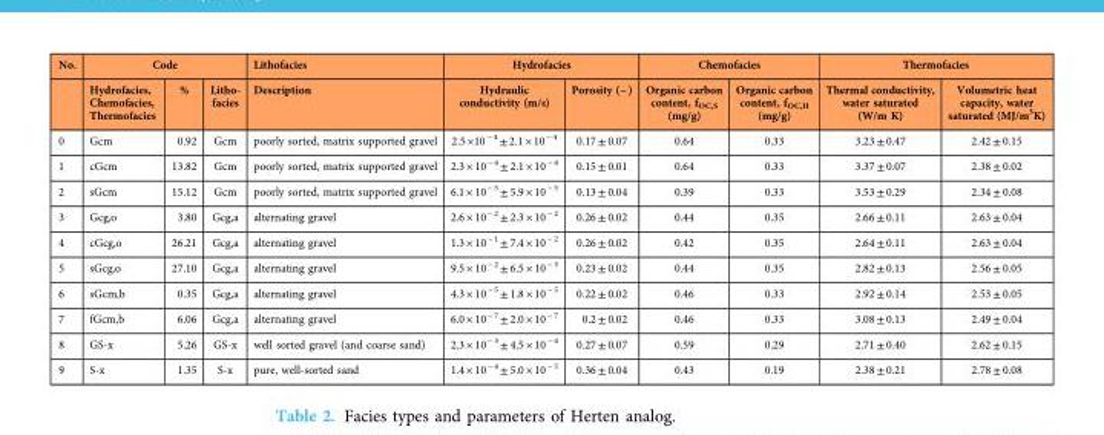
<table><thead><tr><td rowspan="2">No.</td><td colspan="3">Code</td><td rowspan="2">Lithofacies Description</td><td colspan="2">Hydrofacies</td><td colspan="2">Chemofacies</td><td colspan="2">Thermofacies</td></tr><tr><td>Hydrofacies, Chemofacies, Thermofacies</td><td>%</td><td>Litho- facies</td><td>Hydraulic conductivity (m/s)</td><td>Porosity (− )</td><td>Organic carbon content, f<sub>OC,S</sub> (mg/g)</td><td>Organic carbon content, f<sub>OC,H</sub> (mg/g)</td><td>Thermal conductivity, water saturated (W/m K)</td><td>Volumetric heat capacity, water saturated (MJ/m<sup>3</sup>K)</td></tr></thead><tbody><tr><td>0</td><td>Gcm</td><td>0.92</td><td>Gcm</td><td>poorly sorted, matrix supported gravel</td><td>2.5 ×10 <sup>− 4</sup> ± 2.1 × 10 <sup>− 4</sup></td><td>0.17 ± 0.07</td><td>0.64</td><td>0.33</td><td>3.23 ± 0.47</td><td>2.42 ± 0.15</td></tr><tr><td>1</td><td>cGcm</td><td>13.82</td><td>Gcm</td><td>poorly sorted, matrix supported gravel</td><td>2.3 × 10 <sup>− 4</sup> ± 2.1 × 10 <sup>− 4</sup></td><td>0.15 ± 0.01</td><td>0.64</td><td>0.33</td><td>3.37 ± 0.07</td><td>2.38 ± 0.02</td></tr><tr><td>2</td><td>sGcm</td><td>15.12</td><td>Gcm</td><td>poorly sorted, matrix supported gravel</td><td>6.1 × 10 <sup>− 5</sup> ± 5.9 × 10 <sup>− 5</sup></td><td>0.13 ± 0.04</td><td>0.39</td><td>0.33</td><td>3.53 ± 0.29</td><td>2.34 ± 0.08</td></tr><tr><td>3</td><td>Gcg,o</td><td>3.80</td><td>Gcg,a</td><td>alternating gravel</td><td>2.6 × 10 <sup>− 2</sup> ± 2.3 × 10 <sup>− 2</sup></td><td>0.26 ± 0.02</td><td>0.44</td><td>0.35</td><td>2.66 ± 0.11</td><td>2.63 ± 0.04</td></tr><tr><td>4</td><td>cGcg,o</td><td>26.21</td><td>Gcg,a</td><td>alternating gravel</td><td>1.3 × 10 <sup>− 1</sup> ± 7.4 × 10 <sup>− 2</sup></td><td>0.26 ± 0.02</td><td>0.42</td><td>0.35</td><td>2.64 ± 0.11</td><td>2.63 ± 0.04</td></tr><tr><td>5</td><td>sGcg,o</td><td>27.10</td><td>Gcg,a</td><td>alternating gravel</td><td>9.5 × 10 <sup>− 2</sup> ± 6.5 × 10 <sup>− 3</sup></td><td>0.23 ± 0.02</td><td>0.44</td><td>0.35</td><td>2.82 ± 0.13</td><td>2.56 ± 0.05</td></tr><tr><td>6</td><td>sGcm,b</td><td>0.35</td><td>Gcg,a</td><td>alternating gravel</td><td>4.3 × 10 <sup>− 5</sup> ± 1.8 × 10 <sup>− 5</sup></td><td>0.22 ± 0.02</td><td>0.46</td><td>0.33</td><td>2.92 ± 0.14</td><td>2.53 ± 0.05</td></tr><tr><td>7</td><td>fGcm,b</td><td>6.06</td><td>Gcg,a</td><td>alternating gravel</td><td>6.0 × 10 <sup>− 7</sup> ± 2.0 × 10 <sup>− 7</sup></td><td>0.2 ± 0.02</td><td>0.46</td><td>0.33</td><td>3.08 ± 0.13</td><td>2.49 ± 0.04</td></tr><tr><td>8</td><td>GS-x</td><td>5.26</td><td>GS-x</td><td>well sorted gravel (and coarse sand)</td><td>2.3 × 10 <sup>− 3</sup> ± 4.5 × 10 <sup>− 4</sup></td><td>0.27 ± 0.07</td><td>0.59</td><td>0.29</td><td>2.71 ± 0.40</td><td>2.62 ± 0.15</td></tr><tr><td>9</td><td>S-x</td><td>1.35</td><td>S-x</td><td>pure, well-sorted sand</td><td>1.4 × 10 <sup>− 4</sup> ± 5.0 × 10 <sup>− 5</sup></td><td>0.36 ± 0.04</td><td>0.43</td><td>0.19</td><td>2.38 ± 0.21</td><td>2.78 ± 0.08</td></tr></tbody></table>